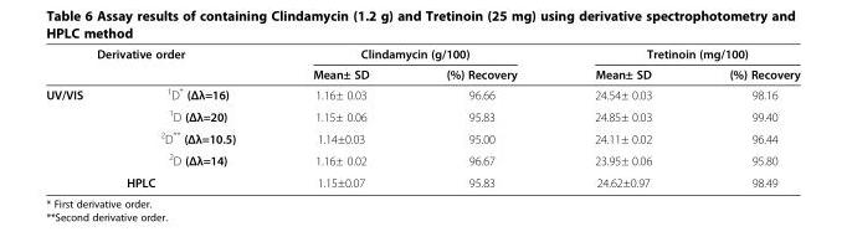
<table><thead><tr><td colspan="2">Derivative order</td><td colspan="2">Clindamycin (g/100)</td><td colspan="2">Tretinoin (mg/100)</td></tr><tr><td></td><td></td><td>Mean± SD</td><td>(%) Recovery</td><td>Mean± SD</td><td>(%) Recovery</td></tr></thead><tbody><tr><td rowspan="4">UV/VIS</td><td><sup>1</sup>D* (Δλ=16)</td><td>1.16± 0.03</td><td>96.66</td><td>24.54± 0.03</td><td>98.16</td></tr><tr><td><sup>1</sup>D (Δλ=20)</td><td>1.15± 0.06</td><td>95.83</td><td>24.85± 0.03</td><td>99.40</td></tr><tr><td><sup>2</sup>D** (Δλ=10.5)</td><td>1.14±0.03</td><td>95.00</td><td>24.11± 0.02</td><td>96.44</td></tr><tr><td><sup>2</sup>D (Δλ=14)</td><td>1.16± 0.02</td><td>96.67</td><td>23.95± 0.06</td><td>95.80</td></tr><tr><td colspan="2">HPLC</td><td>1.15±0.07</td><td>95.83</td><td>24.62±0.97</td><td>98.49</td></tr></tbody></table>